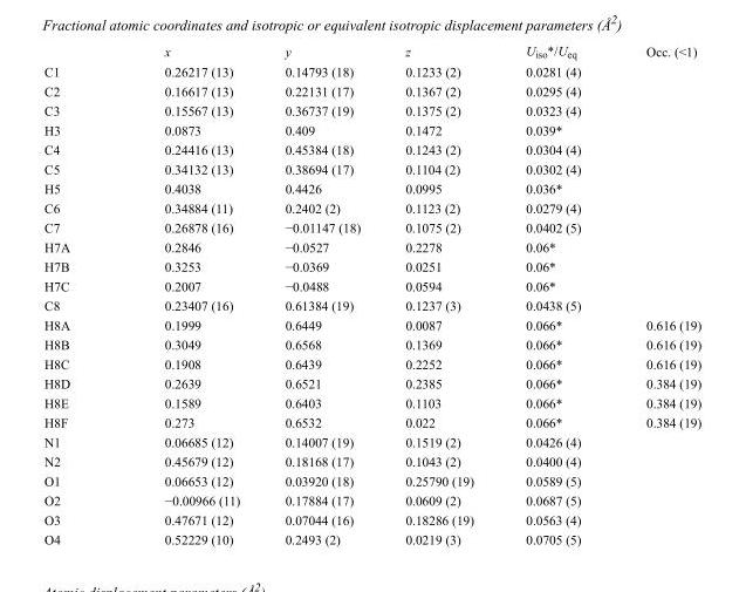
<table><thead><tr><td></td><td>x</td><td>y</td><td>z</td><td>U<sub>iso</sub>*/U<sub>eq</sub></td><td>Occ. (&lt;1)</td></tr></thead><tbody><tr><td>C1</td><td>0.26217 (13)</td><td>0.14793 (18)</td><td>0.1233 (2)</td><td>0.0281 (4)</td><td></td></tr><tr><td>C2</td><td>0.16617 (13)</td><td>0.22131 (17)</td><td>0.1367 (2)</td><td>0.0295 (4)</td><td></td></tr><tr><td>C3</td><td>0.15567 (13)</td><td>0.36737 (19)</td><td>0.1375 (2)</td><td>0.0323 (4)</td><td></td></tr><tr><td>H3</td><td>0.0873</td><td>0.409</td><td>0.1472</td><td>0.039*</td><td></td></tr><tr><td>C4</td><td>0.24416 (13)</td><td>0.45384 (18)</td><td>0.1243 (2)</td><td>0.0304 (4)</td><td></td></tr><tr><td>C5</td><td>0.34132 (13)</td><td>0.38694 (17)</td><td>0.1104 (2)</td><td>0.0302 (4)</td><td></td></tr><tr><td>H5</td><td>0.4038</td><td>0.4426</td><td>0.0995</td><td>0.036*</td><td></td></tr><tr><td>C6</td><td>0.34884 (11)</td><td>0.2402 (2)</td><td>0.1123 (2)</td><td>0.0279 (4)</td><td></td></tr><tr><td>C7</td><td>0.26878 (16)</td><td>−0.01147 (18)</td><td>0.1075 (2)</td><td>0.0402 (5)</td><td></td></tr><tr><td>H7A</td><td>0.2846</td><td>−0.0527</td><td>0.2278</td><td>0.06*</td><td></td></tr><tr><td>H7B</td><td>0.3253</td><td>−0.0369</td><td>0.0251</td><td>0.06*</td><td></td></tr><tr><td>H7C</td><td>0.2007</td><td>−0.0488</td><td>0.0594</td><td>0.06*</td><td></td></tr><tr><td>C8</td><td>0.23407 (16)</td><td>0.61384 (19)</td><td>0.1237 (3)</td><td>0.0438 (5)</td><td></td></tr><tr><td>H8A</td><td>0.1999</td><td>0.6449</td><td>0.0087</td><td>0.066*</td><td>0.616 (19)</td></tr><tr><td>H8B</td><td>0.3049</td><td>0.6568</td><td>0.1369</td><td>0.066*</td><td>0.616 (19)</td></tr><tr><td>H8C</td><td>0.1908</td><td>0.6439</td><td>0.2252</td><td>0.066*</td><td>0.616 (19)</td></tr><tr><td>H8D</td><td>0.2639</td><td>0.6521</td><td>0.2385</td><td>0.066*</td><td>0.384 (19)</td></tr><tr><td>H8E</td><td>0.1589</td><td>0.6403</td><td>0.1103</td><td>0.066*</td><td>0.384 (19)</td></tr><tr><td>H8F</td><td>0.273</td><td>0.6532</td><td>0.022</td><td>0.066*</td><td>0.384 (19)</td></tr><tr><td>N1</td><td>0.06685 (12)</td><td>0.14007 (19)</td><td>0.1519 (2)</td><td>0.0426 (4)</td><td></td></tr><tr><td>N2</td><td>0.45679 (12)</td><td>0.18168 (17)</td><td>0.1043 (2)</td><td>0.0400 (4)</td><td></td></tr><tr><td>O1</td><td>0.06653 (12)</td><td>0.03920 (18)</td><td>0.25790 (19)</td><td>0.0589 (5)</td><td></td></tr><tr><td>O2</td><td>−0.00966 (11)</td><td>0.17884 (17)</td><td>0.0609 (2)</td><td>0.0687 (5)</td><td></td></tr><tr><td>O3</td><td>0.47671 (12)</td><td>0.07044 (16)</td><td>0.18286 (19)</td><td>0.0563 (4)</td><td></td></tr><tr><td>O4</td><td>0.52229 (10)</td><td>0.2493 (2)</td><td>0.0219 (3)</td><td>0.0705 (5)</td><td></td></tr></tbody></table>